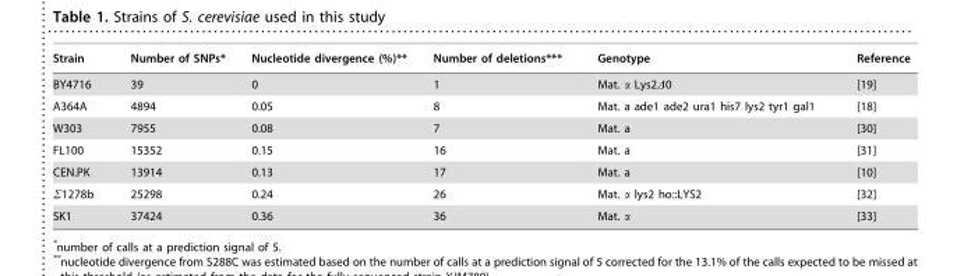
<table><thead><tr><td>Strain</td><td>Number of SNPs*</td><td>Nucleotide divergence (%)**</td><td>Number of deletions***</td><td>Genotype</td><td>Reference</td></tr></thead><tbody><tr><td>BY4716</td><td>39</td><td>0</td><td>1</td><td>Mat. α Lys2Δ0</td><td>[19]</td></tr><tr><td>A364A</td><td>4894</td><td>0.05</td><td>8</td><td>Mat. a ade1 ade2 ura1 his7 lys2 tyr1 gal1</td><td>[18]</td></tr><tr><td>W303</td><td>7955</td><td>0.08</td><td>7</td><td>Mat. a</td><td>[30]</td></tr><tr><td>FL100</td><td>15352</td><td>0.15</td><td>16</td><td>Mat. a</td><td>[31]</td></tr><tr><td>CEN.PK</td><td>13914</td><td>0.13</td><td>17</td><td>Mat. a</td><td>[10]</td></tr><tr><td>Σ1278b</td><td>25298</td><td>0.24</td><td>26</td><td>Mat. α lys2 ho::LYS2</td><td>[32]</td></tr><tr><td>SK1</td><td>37424</td><td>0.36</td><td>36</td><td>Mat. α</td><td>[33]</td></tr></tbody></table>